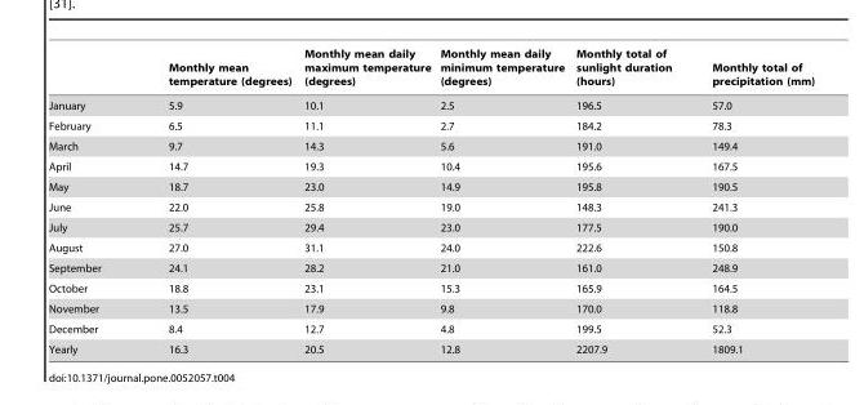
<table><thead><tr><td></td><td>Monthly mean temperature (degrees)</td><td>Monthly mean daily maximum temperature (degrees)</td><td>Monthly mean daily minimum temperature (degrees)</td><td>Monthly total of sunlight duration (hours)</td><td>Monthly total of precipitation (mm)</td></tr></thead><tbody><tr><td>January</td><td>5.9</td><td>10.1</td><td>2.5</td><td>196.5</td><td>57.0</td></tr><tr><td>February</td><td>6.5</td><td>11.1</td><td>2.7</td><td>184.2</td><td>78.3</td></tr><tr><td>March</td><td>9.7</td><td>14.3</td><td>5.6</td><td>191.0</td><td>149.4</td></tr><tr><td>April</td><td>14.7</td><td>19.3</td><td>10.4</td><td>195.6</td><td>167.5</td></tr><tr><td>May</td><td>18.7</td><td>23.0</td><td>14.9</td><td>195.8</td><td>190.5</td></tr><tr><td>June</td><td>22.0</td><td>25.8</td><td>19.0</td><td>148.3</td><td>241.3</td></tr><tr><td>July</td><td>25.7</td><td>29.4</td><td>23.0</td><td>177.5</td><td>190.0</td></tr><tr><td>August</td><td>27.0</td><td>31.1</td><td>24.0</td><td>222.6</td><td>150.8</td></tr><tr><td>September</td><td>24.1</td><td>28.2</td><td>21.0</td><td>161.0</td><td>248.9</td></tr><tr><td>October</td><td>18.8</td><td>23.1</td><td>15.3</td><td>165.9</td><td>164.5</td></tr><tr><td>November</td><td>13.5</td><td>17.9</td><td>9.8</td><td>170.0</td><td>118.8</td></tr><tr><td>December</td><td>8.4</td><td>12.7</td><td>4.8</td><td>199.5</td><td>52.3</td></tr><tr><td>Yearly</td><td>16.3</td><td>20.5</td><td>12.8</td><td>2207.9</td><td>1809.1</td></tr></tbody></table>